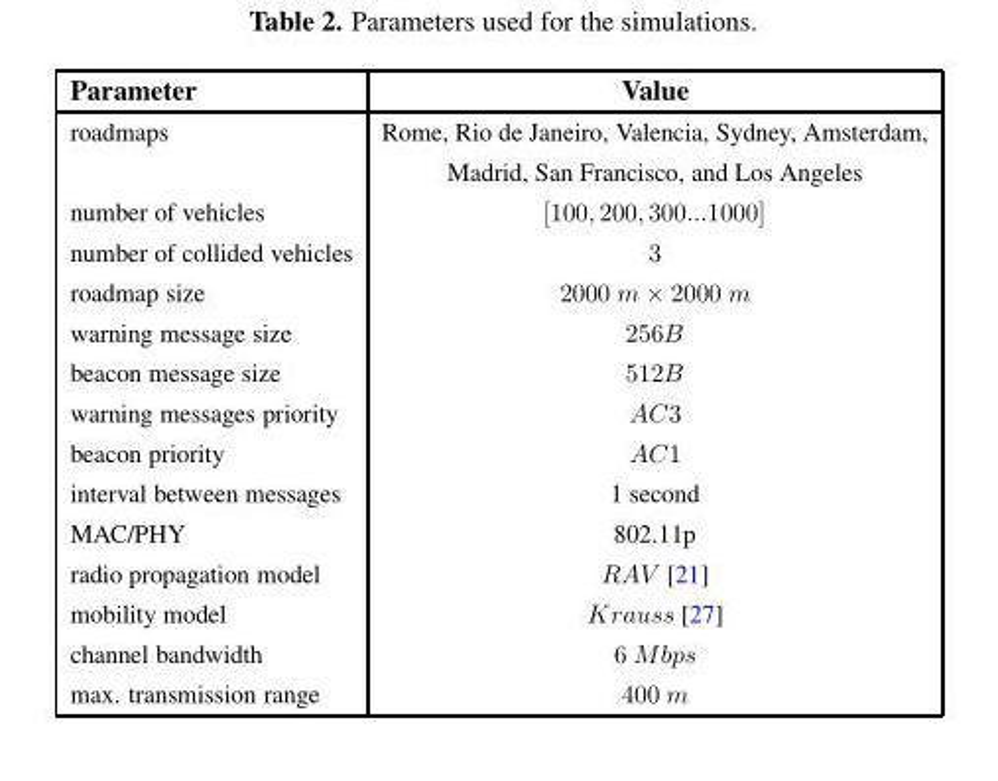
<table><thead><tr><td>Parameter</td><td>Value</td></tr></thead><tbody><tr><td>roadmaps</td><td>Rome, Rio de Janeiro, Valencia, Sydney, Amsterdam, Madrid, San Francisco, and Los Angeles</td></tr><tr><td>number of vehicles</td><td>[100, 200, 300...1000]</td></tr><tr><td>number of collided vehicles</td><td>3</td></tr><tr><td>roadmap size</td><td>2000 m × 2000 m</td></tr><tr><td>warning message size</td><td>256B</td></tr><tr><td>beacon message size</td><td>512B</td></tr><tr><td>warning messages priority</td><td>AC3</td></tr><tr><td>beacon priority</td><td>AC1</td></tr><tr><td>interval between messages</td><td>1 second</td></tr><tr><td>MAC/PHY</td><td>802.11p</td></tr><tr><td>radio propagation model</td><td>RAV [21]</td></tr><tr><td>mobility model</td><td>Krauss [27]</td></tr><tr><td>channel bandwidth</td><td>6 Mbps</td></tr><tr><td>max. transmission range</td><td>400 m</td></tr></tbody></table>